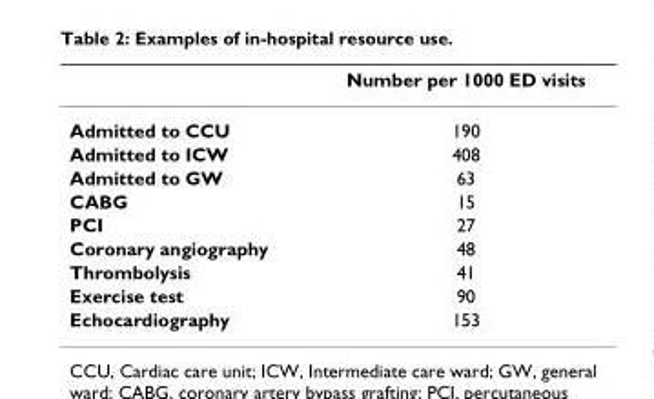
<table><thead><tr><td></td><td>Number per 1000 ED visits</td></tr></thead><tbody><tr><td>Admitted to CCU</td><td>190</td></tr><tr><td>Admitted to ICW</td><td>408</td></tr><tr><td>Admitted to GW</td><td>63</td></tr><tr><td>CABG</td><td>15</td></tr><tr><td>PCI</td><td>27</td></tr><tr><td>Coronary angiography</td><td>48</td></tr><tr><td>Thrombolysis</td><td>41</td></tr><tr><td>Exercise test</td><td>90</td></tr><tr><td>Echocardiography</td><td>153</td></tr></tbody></table>